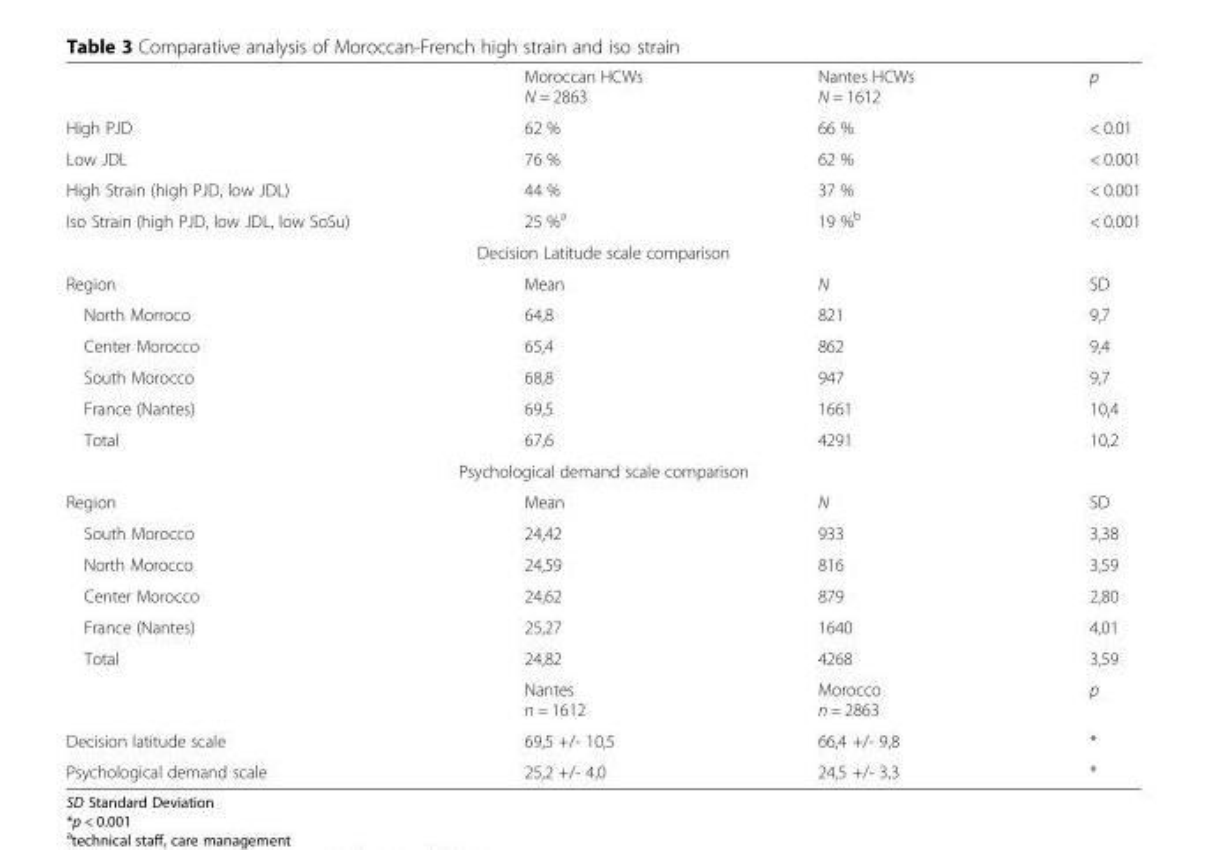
<table><thead><tr><td></td><td>Moroccan HCWs N = 2863</td><td>Nantes HCWs N = 1612</td><td>p</td></tr></thead><tbody><tr><td>High PJD</td><td>62 %</td><td>66 %</td><td>&lt; 0.01</td></tr><tr><td>Low JDL</td><td>76 %</td><td>62 %</td><td>&lt; 0.001</td></tr><tr><td>High Strain (high PJD, low JDL)</td><td>44 %</td><td>37 %</td><td>&lt; 0.001</td></tr><tr><td>Iso Strain (high PJD, low JDL, low SoSu)</td><td>25 %<sup>a</sup></td><td>19 %<sup>b</sup></td><td>&lt; 0.001</td></tr><tr><td colspan="4">Decision Latitude scale comparison</td></tr><tr><td>Region</td><td>Mean</td><td>N</td><td>SD</td></tr><tr><td>North Morroco</td><td>64,8</td><td>821</td><td>9,7</td></tr><tr><td>Center Morocco</td><td>65,4</td><td>862</td><td>9,4</td></tr><tr><td>South Morocco</td><td>68,8</td><td>947</td><td>9,7</td></tr><tr><td>France (Nantes)</td><td>69,5</td><td>1661</td><td>10,4</td></tr><tr><td>Total</td><td>67,6</td><td>4291</td><td>10,2</td></tr><tr><td colspan="4">Psychological demand scale comparison</td></tr><tr><td>Region</td><td>Mean</td><td>N</td><td>SD</td></tr><tr><td>South Morocco</td><td>24,42</td><td>933</td><td>3,38</td></tr><tr><td>North Morocco</td><td>24,59</td><td>816</td><td>3,59</td></tr><tr><td>Center Morocco</td><td>24,62</td><td>879</td><td>2,80</td></tr><tr><td>France (Nantes)</td><td>25,27</td><td>1640</td><td>4,01</td></tr><tr><td rowspan="2">Total</td><td>24,82</td><td>4268</td><td>3,59</td></tr><tr><td>Nantes n = 1612</td><td>Morocco n = 2863</td><td>p</td></tr><tr><td>Decision latitude scale</td><td>69,5 +/- 10,5</td><td>66,4 +/- 9,8</td><td>*</td></tr><tr><td>Psychological demand scale</td><td>25,2 +/- 4,0</td><td>24,5 +/- 3,3</td><td>*</td></tr></tbody></table>